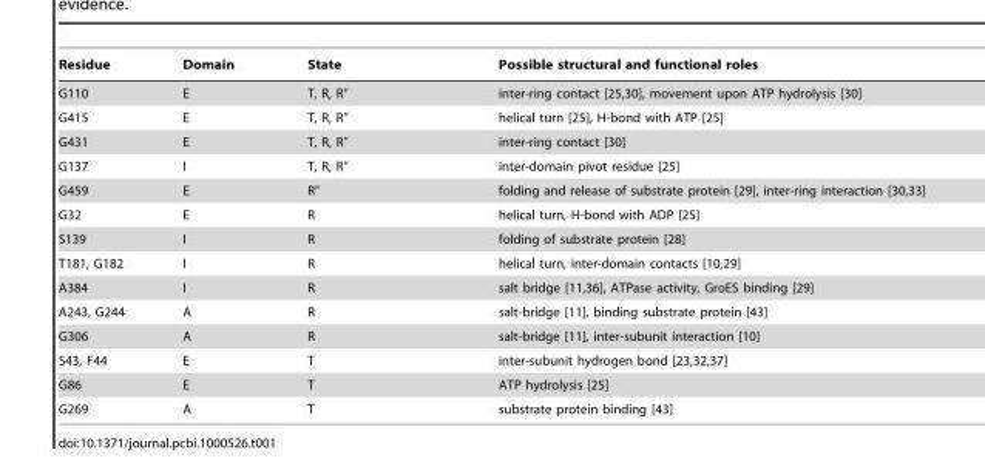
<table><thead><tr><td>Residue</td><td>Domain</td><td>State</td><td>Possible structural and functional roles</td></tr></thead><tbody><tr><td>G110</td><td>E</td><td>T, R, R″</td><td>inter-ring contact [25,30], movement upon ATP hydrolysis [30]</td></tr><tr><td>G415</td><td>E</td><td>T, R, R″</td><td>helical turn [25], H-bond with ATP [25]</td></tr><tr><td>G431</td><td>E</td><td>T, R, R″</td><td>inter-ring contact [30]</td></tr><tr><td>G137</td><td>I</td><td>T, R, R″</td><td>inter-domain pivot residue [25]</td></tr><tr><td>G459</td><td>E</td><td>R″</td><td>folding and release of substrate protein [29], inter-ring interaction [30,33]</td></tr><tr><td>G32</td><td>E</td><td>R</td><td>helical turn, H-bond with ADP [25]</td></tr><tr><td>S139</td><td>I</td><td>R</td><td>folding of substrate protein [28]</td></tr><tr><td>T181, G182</td><td>I</td><td>R</td><td>helical turn, inter-domain contacts [10,29]</td></tr><tr><td>A384</td><td>I</td><td>R</td><td>salt bridge [11,36], ATPase activity, GroES binding [29]</td></tr><tr><td>A243, G244</td><td>A</td><td>R</td><td>salt-bridge [11], binding substrate protein [43]</td></tr><tr><td>G306</td><td>A</td><td>R</td><td>salt-bridge [11], inter-subunit interaction [10]</td></tr><tr><td>S43, F44</td><td>E</td><td>T</td><td>inter-subunit hydrogen bond [23,32,37]</td></tr><tr><td>G86</td><td>E</td><td>T</td><td>ATP hydrolysis [25]</td></tr><tr><td>G269</td><td>A</td><td>T</td><td>substrate protein binding [43]</td></tr></tbody></table>